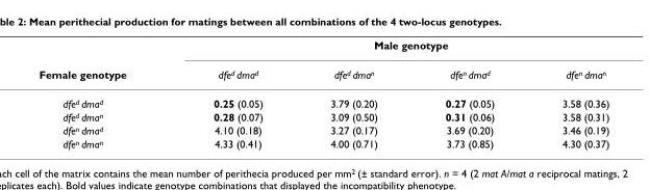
<table><thead><tr><td rowspan="2">Female genotype</td><td colspan="4">Male genotype</td></tr><tr><td>dfe<sup>d</sup> dma<sup>d</sup></td><td>dfe<sup>d</sup> dma<sup>n</sup></td><td>dfe<sup>n</sup> dma<sup>d</sup></td><td>dfe<sup>n</sup> dma<sup>n</sup></td></tr></thead><tbody><tr><td>dfe<sup>d</sup> dma<sup>d</sup></td><td>0.25 (0.05)</td><td>3.79 (0.20)</td><td>0.27 (0.05)</td><td>3.58 (0.36)</td></tr><tr><td>dfe<sup>d</sup> dma<sup>n</sup></td><td>0.28 (0.07)</td><td>3.09 (0.50)</td><td>0.31 (0.06)</td><td>3.58 (0.31)</td></tr><tr><td>dfe<sup>n</sup> dma<sup>d</sup></td><td>4.10 (0.18)</td><td>3.27 (0.17)</td><td>3.69 (0.20)</td><td>3.46 (0.19)</td></tr><tr><td>dfe<sup>n</sup> dma<sup>n</sup></td><td>4.33 (0.41)</td><td>4.00 (0.71)</td><td>3.73 (0.85)</td><td>4.30 (0.37)</td></tr></tbody></table>